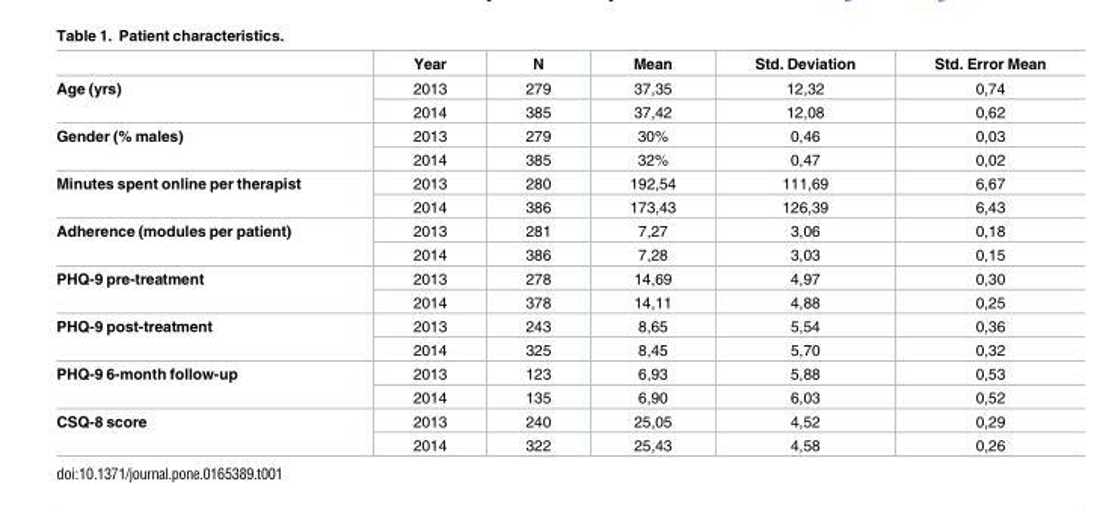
<table><thead><tr><td></td><td>Year</td><td>N</td><td>Mean</td><td>Std. Deviation</td><td>Std. Error Mean</td></tr></thead><tbody><tr><td rowspan="2">Age (yrs)</td><td>2013</td><td>279</td><td>37,35</td><td>12,32</td><td>0,74</td></tr><tr><td>2014</td><td>385</td><td>37,42</td><td>12,08</td><td>0,62</td></tr><tr><td rowspan="2">Gender (% males)</td><td>2013</td><td>279</td><td>30%</td><td>0,46</td><td>0,03</td></tr><tr><td>2014</td><td>385</td><td>32%</td><td>0,47</td><td>0,02</td></tr><tr><td rowspan="2">Minutes spent online per therapist</td><td>2013</td><td>280</td><td>192,54</td><td>111,69</td><td>6,67</td></tr><tr><td>2014</td><td>386</td><td>173,43</td><td>126,39</td><td>6,43</td></tr><tr><td rowspan="2">Adherence (modules per patient)</td><td>2013</td><td>281</td><td>7,27</td><td>3,06</td><td>0,18</td></tr><tr><td>2014</td><td>386</td><td>7,28</td><td>3,03</td><td>0,15</td></tr><tr><td rowspan="2">PHQ-9 pre-treatment</td><td>2013</td><td>278</td><td>14,69</td><td>4,97</td><td>0,30</td></tr><tr><td>2014</td><td>378</td><td>14,11</td><td>4,88</td><td>0,25</td></tr><tr><td rowspan="2">PHQ-9 post-treatment</td><td>2013</td><td>243</td><td>8,65</td><td>5,54</td><td>0,36</td></tr><tr><td>2014</td><td>325</td><td>8,45</td><td>5,70</td><td>0,32</td></tr><tr><td rowspan="2">PHQ-9 6-month follow-up</td><td>2013</td><td>123</td><td>6,93</td><td>5,88</td><td>0,53</td></tr><tr><td>2014</td><td>135</td><td>6,90</td><td>6,03</td><td>0,52</td></tr><tr><td rowspan="2">CSQ-8 score</td><td>2013</td><td>240</td><td>25,05</td><td>4,52</td><td>0,29</td></tr><tr><td>2014</td><td>322</td><td>25,43</td><td>4,58</td><td>0,26</td></tr></tbody></table>